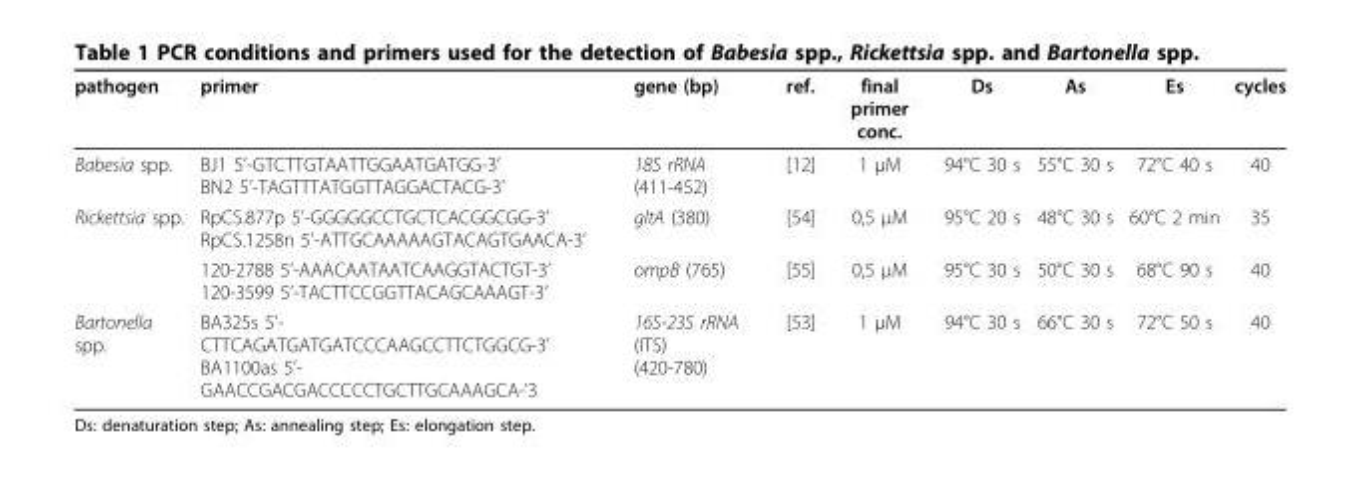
<table><thead><tr><td>pathogen</td><td>primer</td><td>gene (bp)</td><td>ref.</td><td>final primer conc.</td><td>Ds</td><td>As</td><td>Es</td><td>cycles</td></tr></thead><tbody><tr><td>Babesia spp.</td><td>BJ1 5’-GTCTTGTAATTGGAATGATGG-3’ BN2 5’-TAGTTTATGGTTAGGACTACG-3’</td><td>18S rRNA (411-452)</td><td>[12]</td><td>1 μM</td><td>94°C 30 s</td><td>55°C 30 s</td><td>72°C 40 s</td><td>40</td></tr><tr><td rowspan="2">Rickettsia spp.</td><td>RpCS.877p 5’-GGGGGCCTGCTCACGGCGG-3’ RpCS.1258n 5’-ATTGCAAAAAGTACAGTGAACA-3’</td><td>gltA (380)</td><td>[54]</td><td>0,5 μM</td><td>95°C 20 s</td><td>48°C 30 s</td><td>60°C 2 min</td><td>35</td></tr><tr><td>120-2788 5’-AAACAATAATCAAGGTACTGT-3’ 120-3599 5’-TACTTCCGGTTACAGCAAAGT-3’</td><td>ompB (765)</td><td>[55]</td><td>0,5 μM</td><td>95°C 30 s</td><td>50°C 30 s</td><td>68°C 90 s</td><td>40</td></tr><tr><td>Bartonella spp.</td><td>BA325s 5’- CTTCAGATGATGATCCCAAGCCTTCTGGCG-3’ BA1100as 5’- GAACCGACGACCCCCTGCTTGCAAAGCA-’3</td><td>16S-23S rRNA (ITS) (420-780)</td><td>[53]</td><td>1 μM</td><td>94°C 30 s</td><td>66°C 30 s</td><td>72°C 50 s</td><td>40</td></tr></tbody></table>